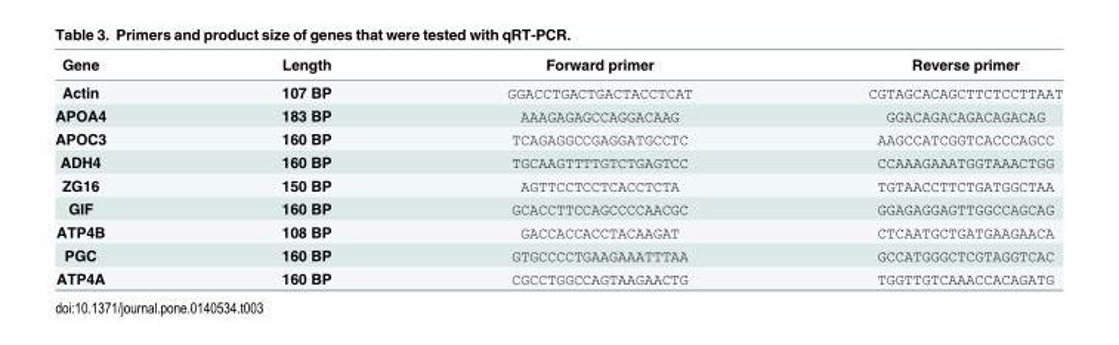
<table><thead><tr><td>Gene</td><td>Length</td><td>Forward primer</td><td>Reverse primer</td></tr></thead><tbody><tr><td>Actin</td><td>107 BP</td><td>GGACCTGACTGACTACCTCAT</td><td>CGTAGCACAGCTTCTCCTTAAT</td></tr><tr><td>APOA4</td><td>183 BP</td><td>AAAGAGAGCCAGGACAAG</td><td>GGACAGACAGACAGACAG</td></tr><tr><td>APOC3</td><td>160 BP</td><td>TCAGAGGCCGAGGATGCCTC</td><td>AAGCCATCGGTCACCCAGCC</td></tr><tr><td>ADH4</td><td>160 BP</td><td>TGCAAGTTTTGTCTGAGTCC</td><td>CCAAAGAAATGGTAAACTGG</td></tr><tr><td>ZG16</td><td>150 BP</td><td>AGTTCCTCCTCACCTCTA</td><td>TGTAACCTTCTGATGGCTAA</td></tr><tr><td>GIF</td><td>160 BP</td><td>GCACCTTCCAGCCCCAACGC</td><td>GGAGAGGAGTTGGCCAGCAG</td></tr><tr><td>ATP4B</td><td>108 BP</td><td>GACCACCACCTACAAGAT</td><td>CTCAATGCTGATGAAGAACA</td></tr><tr><td>PGC</td><td>160 BP</td><td>GTGCCCCTGAAGAAATTTAA</td><td>GCCATGGGCTCGTAGGTCAC</td></tr><tr><td>ATP4A</td><td>160 BP</td><td>CGCCTGGCCAGTAAGAACTG</td><td>TGGTTGTCAAACCACAGATG</td></tr></tbody></table>